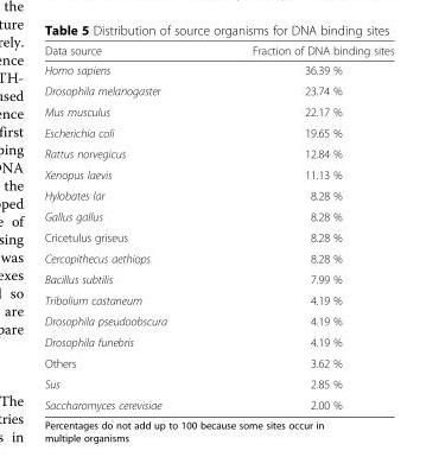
<table><thead><tr><td>Data source</td><td>Fraction of DNA binding sites</td></tr></thead><tbody><tr><td>Homo sapiens</td><td>36.39 %</td></tr><tr><td>Drosophila melanogaster</td><td>23.74 %</td></tr><tr><td>Mus musculus</td><td>22.17 %</td></tr><tr><td>Escherichia coli</td><td>19.65 %</td></tr><tr><td>Rattus norvegicus</td><td>12.84 %</td></tr><tr><td>Xenopus laevis</td><td>11.13 %</td></tr><tr><td>Hylobates lar</td><td>8.28 %</td></tr><tr><td>Gallus gallus</td><td>8.28 %</td></tr><tr><td>Cricetulus griseus</td><td>8.28 %</td></tr><tr><td>Cercopithecus aethiops</td><td>8.28 %</td></tr><tr><td>Bacillus subtilis</td><td>7.99 %</td></tr><tr><td>Tribolium castaneum</td><td>4.19 %</td></tr><tr><td>Drosophila pseudoobscura</td><td>4.19 %</td></tr><tr><td>Drosophila funebris</td><td>4.19 %</td></tr><tr><td>Others</td><td>3.62 %</td></tr><tr><td>Sus</td><td>2.85 %</td></tr><tr><td>Saccharomyces cerevisiae</td><td>2.00 %</td></tr></tbody></table>